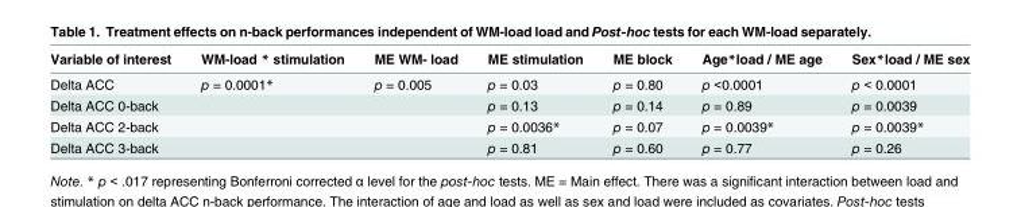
<table><thead><tr><td>Variable of interest</td><td>WM-load * stimulation</td><td>ME WM- load</td><td>ME stimulation</td><td>ME block</td><td>Age*load / ME age</td><td>Sex*load / ME sex</td></tr></thead><tbody><tr><td>Delta ACC</td><td>p = 0.0001*</td><td>p = 0.005</td><td>p = 0.03</td><td>p = 0.80</td><td>p &lt;0.0001</td><td>p &lt; 0.0001</td></tr><tr><td>Delta ACC 0-back</td><td></td><td></td><td>p = 0.13</td><td>p = 0.14</td><td>p = 0.89</td><td>p = 0.0039</td></tr><tr><td>Delta ACC 2-back</td><td></td><td></td><td>p = 0.0036*</td><td>p = 0.07</td><td>p = 0.0039*</td><td>p = 0.0039*</td></tr><tr><td>Delta ACC 3-back</td><td></td><td></td><td>p = 0.81</td><td>p = 0.60</td><td>p = 0.77</td><td>p = 0.26</td></tr></tbody></table>